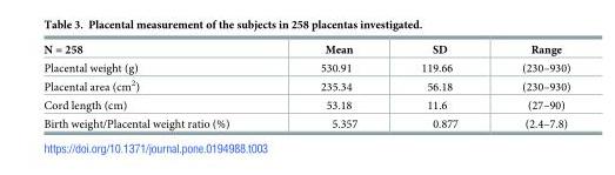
<table><thead><tr><td>N = 258</td><td>Mean</td><td>SD</td><td>Range</td></tr></thead><tbody><tr><td>Placental weight (g)</td><td>530.91</td><td>119.66</td><td>(230–930)</td></tr><tr><td>Placental area (cm<sup>2</sup>)</td><td>235.34</td><td>56.18</td><td>(230–930)</td></tr><tr><td>Cord length (cm)</td><td>53.18</td><td>11.6</td><td>(27–90)</td></tr><tr><td>Birth weight/Placental weight ratio (%)</td><td>5.357</td><td>0.877</td><td>(2.4–7.8)</td></tr></tbody></table>